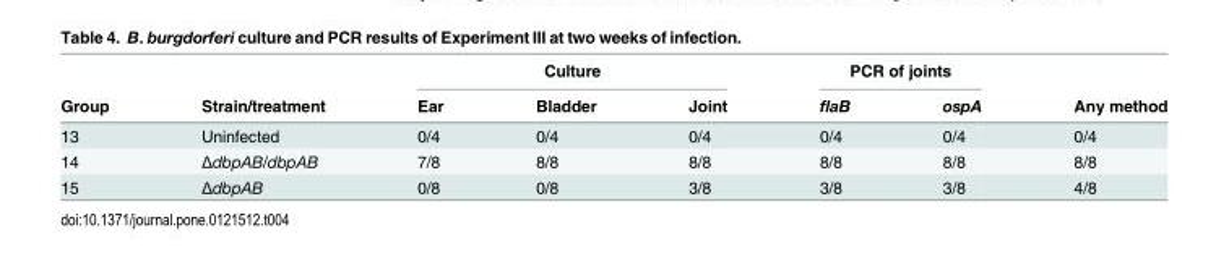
<table><thead><tr><td rowspan="2">Group</td><td rowspan="2">Strain/treatment</td><td colspan="3">Culture</td><td colspan="2">PCR of joints</td><td rowspan="2">Any method</td></tr><tr><td>Ear</td><td>Bladder</td><td>Joint</td><td>flaB</td><td>ospA</td></tr></thead><tbody><tr><td>13</td><td>Uninfected</td><td>0/4</td><td>0/4</td><td>0/4</td><td>0/4</td><td>0/4</td><td>0/4</td></tr><tr><td>14</td><td>ΔdbpAB/dbpAB</td><td>7/8</td><td>8/8</td><td>8/8</td><td>8/8</td><td>8/8</td><td>8/8</td></tr><tr><td>15</td><td>ΔdbpAB</td><td>0/8</td><td>0/8</td><td>3/8</td><td>3/8</td><td>3/8</td><td>4/8</td></tr></tbody></table>